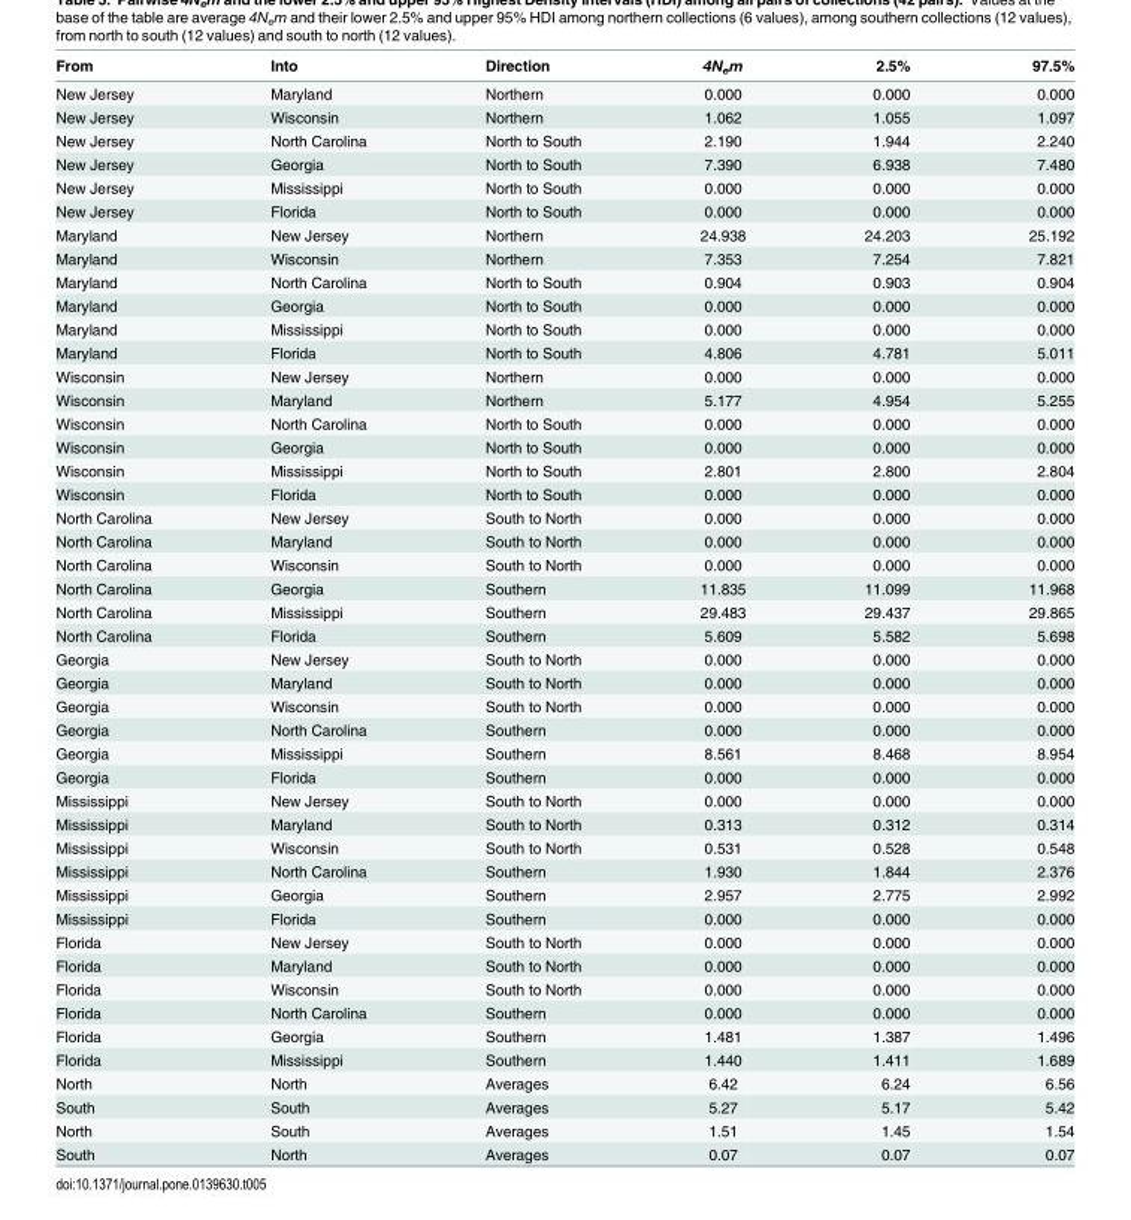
<table><thead><tr><td>From</td><td>Into</td><td>Direction</td><td>4N<sub>e</sub>m</td><td>2.5%</td><td>97.5%</td></tr></thead><tbody><tr><td>New Jersey</td><td>Maryland</td><td>Northern</td><td>0.000</td><td>0.000</td><td>0.000</td></tr><tr><td>New Jersey</td><td>Wisconsin</td><td>Northern</td><td>1.062</td><td>1.055</td><td>1.097</td></tr><tr><td>New Jersey</td><td>North Carolina</td><td>North to South</td><td>2.190</td><td>1.944</td><td>2.240</td></tr><tr><td>New Jersey</td><td>Georgia</td><td>North to South</td><td>7.390</td><td>6.938</td><td>7.480</td></tr><tr><td>New Jersey</td><td>Mississippi</td><td>North to South</td><td>0.000</td><td>0.000</td><td>0.000</td></tr><tr><td>New Jersey</td><td>Florida</td><td>North to South</td><td>0.000</td><td>0.000</td><td>0.000</td></tr><tr><td>Maryland</td><td>New Jersey</td><td>Northern</td><td>24.938</td><td>24.203</td><td>25.192</td></tr><tr><td>Maryland</td><td>Wisconsin</td><td>Northern</td><td>7.353</td><td>7.254</td><td>7.821</td></tr><tr><td>Maryland</td><td>North Carolina</td><td>North to South</td><td>0.904</td><td>0.903</td><td>0.904</td></tr><tr><td>Maryland</td><td>Georgia</td><td>North to South</td><td>0.000</td><td>0.000</td><td>0.000</td></tr><tr><td>Maryland</td><td>Mississippi</td><td>North to South</td><td>0.000</td><td>0.000</td><td>0.000</td></tr><tr><td>Maryland</td><td>Florida</td><td>North to South</td><td>4.806</td><td>4.781</td><td>5.011</td></tr><tr><td>Wisconsin</td><td>New Jersey</td><td>Northern</td><td>0.000</td><td>0.000</td><td>0.000</td></tr><tr><td>Wisconsin</td><td>Maryland</td><td>Northern</td><td>5.177</td><td>4.954</td><td>5.255</td></tr><tr><td>Wisconsin</td><td>North Carolina</td><td>North to South</td><td>0.000</td><td>0.000</td><td>0.000</td></tr><tr><td>Wisconsin</td><td>Georgia</td><td>North to South</td><td>0.000</td><td>0.000</td><td>0.000</td></tr><tr><td>Wisconsin</td><td>Mississippi</td><td>North to South</td><td>2.801</td><td>2.800</td><td>2.804</td></tr><tr><td>Wisconsin</td><td>Florida</td><td>North to South</td><td>0.000</td><td>0.000</td><td>0.000</td></tr><tr><td>North Carolina</td><td>New Jersey</td><td>South to North</td><td>0.000</td><td>0.000</td><td>0.000</td></tr><tr><td>North Carolina</td><td>Maryland</td><td>South to North</td><td>0.000</td><td>0.000</td><td>0.000</td></tr><tr><td>North Carolina</td><td>Wisconsin</td><td>South to North</td><td>0.000</td><td>0.000</td><td>0.000</td></tr><tr><td>North Carolina</td><td>Georgia</td><td>Southern</td><td>11.835</td><td>11.099</td><td>11.968</td></tr><tr><td>North Carolina</td><td>Mississippi</td><td>Southern</td><td>29.483</td><td>29.437</td><td>29.865</td></tr><tr><td>North Carolina</td><td>Florida</td><td>Southern</td><td>5.609</td><td>5.582</td><td>5.698</td></tr><tr><td>Georgia</td><td>New Jersey</td><td>South to North</td><td>0.000</td><td>0.000</td><td>0.000</td></tr><tr><td>Georgia</td><td>Maryland</td><td>South to North</td><td>0.000</td><td>0.000</td><td>0.000</td></tr><tr><td>Georgia</td><td>Wisconsin</td><td>South to North</td><td>0.000</td><td>0.000</td><td>0.000</td></tr><tr><td>Georgia</td><td>North Carolina</td><td>Southern</td><td>0.000</td><td>0.000</td><td>0.000</td></tr><tr><td>Georgia</td><td>Mississippi</td><td>Southern</td><td>8.561</td><td>8.468</td><td>8.954</td></tr><tr><td>Georgia</td><td>Florida</td><td>Southern</td><td>0.000</td><td>0.000</td><td>0.000</td></tr><tr><td>Mississippi</td><td>New Jersey</td><td>South to North</td><td>0.000</td><td>0.000</td><td>0.000</td></tr><tr><td>Mississippi</td><td>Maryland</td><td>South to North</td><td>0.313</td><td>0.312</td><td>0.314</td></tr><tr><td>Mississippi</td><td>Wisconsin</td><td>South to North</td><td>0.531</td><td>0.528</td><td>0.548</td></tr><tr><td>Mississippi</td><td>North Carolina</td><td>Southern</td><td>1.930</td><td>1.844</td><td>2.376</td></tr><tr><td>Mississippi</td><td>Georgia</td><td>Southern</td><td>2.957</td><td>2.775</td><td>2.992</td></tr><tr><td>Mississippi</td><td>Florida</td><td>Southern</td><td>0.000</td><td>0.000</td><td>0.000</td></tr><tr><td>Florida</td><td>New Jersey</td><td>South to North</td><td>0.000</td><td>0.000</td><td>0.000</td></tr><tr><td>Florida</td><td>Maryland</td><td>South to North</td><td>0.000</td><td>0.000</td><td>0.000</td></tr><tr><td>Florida</td><td>Wisconsin</td><td>South to North</td><td>0.000</td><td>0.000</td><td>0.000</td></tr><tr><td>Florida</td><td>North Carolina</td><td>Southern</td><td>0.000</td><td>0.000</td><td>0.000</td></tr><tr><td>Florida</td><td>Georgia</td><td>Southern</td><td>1.481</td><td>1.387</td><td>1.496</td></tr><tr><td>Florida</td><td>Mississippi</td><td>Southern</td><td>1.440</td><td>1.411</td><td>1.689</td></tr><tr><td>North</td><td>North</td><td>Averages</td><td>6.42</td><td>6.24</td><td>6.56</td></tr><tr><td>South</td><td>South</td><td>Averages</td><td>5.27</td><td>5.17</td><td>5.42</td></tr><tr><td>North</td><td>South</td><td>Averages</td><td>1.51</td><td>1.45</td><td>1.54</td></tr><tr><td>South</td><td>North</td><td>Averages</td><td>0.07</td><td>0.07</td><td>0.07</td></tr></tbody></table>